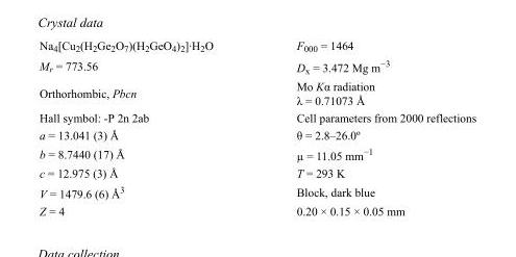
<table><tbody><tr><td>Na<sub>4</sub>[Cu<sub>2</sub>(H<sub>2</sub>Ge<sub>2</sub>O<sub>7</sub>)(H<sub>2</sub>GeO<sub>4</sub>)<sub>2</sub>]·H<sub>2</sub>O</td><td>F000 = 1464</td></tr><tr><td>M<sub>r</sub> = 773.56</td><td>D<sub>x</sub> = 3.472 Mg m<sup>−3</sup></td></tr><tr><td>Orthorhombic, Pbcn</td><td>Mo Kα radiation λ = 0.71073 Å</td></tr><tr><td>Hall symbol: -P 2n 2ab</td><td>Cell parameters from 2000 reflections</td></tr><tr><td>a = 13.041 (3) Å</td><td>θ = 2.8–26.0º</td></tr><tr><td>b = 8.7440 (17) Å</td><td>µ = 11.05 mm<sup>−1</sup></td></tr><tr><td>c = 12.975 (3) Å</td><td>T = 293 K</td></tr><tr><td>V = 1479.6 (6) Å<sup>3</sup></td><td>Block, dark blue</td></tr><tr><td>Z = 4</td><td>0.20 × 0.15 × 0.05 mm</td></tr></tbody></table>